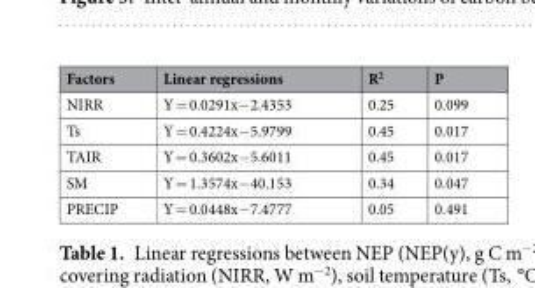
<table><thead><tr><td>Factors</td><td>Linear regressions</td><td>R<sup>2</sup></td><td>P</td></tr></thead><tbody><tr><td>NIRR</td><td>Y = 0.0291x−2.4353</td><td>0.25</td><td>0.099</td></tr><tr><td>Ts</td><td>Y = 0.4224x−5.9799</td><td>0.45</td><td>0.017</td></tr><tr><td>TAIR</td><td>Y = 0.3602x−5.6011</td><td>0.45</td><td>0.017</td></tr><tr><td>SM</td><td>Y = 1.3574x−40.153</td><td>0.34</td><td>0.047</td></tr><tr><td>PRECIP</td><td>Y = 0.0448x−7.4777</td><td>0.05</td><td>0.491</td></tr></tbody></table>